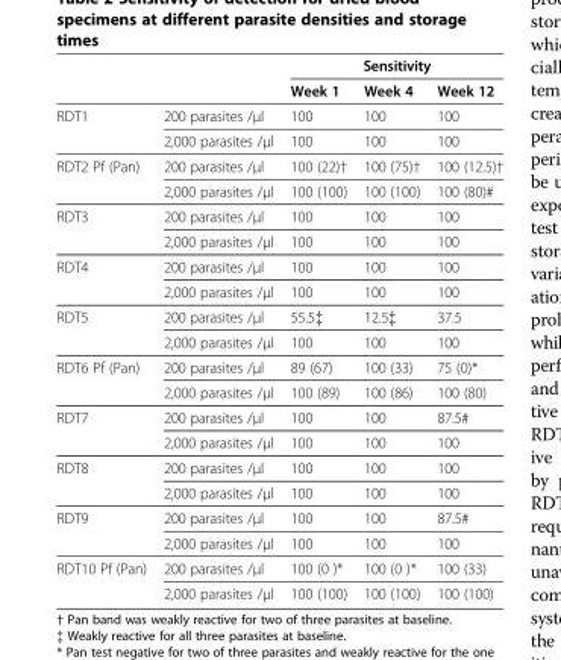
<table><thead><tr><td rowspan="2"></td><td rowspan="2"></td><td colspan="3">Sensitivity</td></tr><tr><td>Week 1</td><td>Week 4</td><td>Week 12</td></tr></thead><tbody><tr><td rowspan="2">RDT1</td><td>200 parasites /μl</td><td>100</td><td>100</td><td>100</td></tr><tr><td>2,000 parasites /μl</td><td>100</td><td>100</td><td>100</td></tr><tr><td rowspan="2">RDT2 Pf (Pan)</td><td>200 parasites /μl</td><td>100 (22)†</td><td>100 (75)†</td><td>100 (12.5)†</td></tr><tr><td>2,000 parasites /μl</td><td>100 (100)</td><td>100 (100)</td><td>100 (80)#</td></tr><tr><td rowspan="2">RDT3</td><td>200 parasites /μl</td><td>100</td><td>100</td><td>100</td></tr><tr><td>2,000 parasites /μl</td><td>100</td><td>100</td><td>100</td></tr><tr><td rowspan="2">RDT4</td><td>200 parasites /μl</td><td>100</td><td>100</td><td>100</td></tr><tr><td>2,000 parasites /μl</td><td>100</td><td>100</td><td>100</td></tr><tr><td rowspan="2">RDT5</td><td>200 parasites /μl</td><td>55.5‡</td><td>12.5‡</td><td>37.5</td></tr><tr><td>2,000 parasites /μl</td><td>100</td><td>100</td><td>100</td></tr><tr><td rowspan="2">RDT6 Pf (Pan)</td><td>200 parasites /μl</td><td>89 (67)</td><td>100 (33)</td><td>75 (0)*</td></tr><tr><td>2,000 parasites /μl</td><td>100 (89)</td><td>100 (86)</td><td>100 (80)</td></tr><tr><td rowspan="2">RDT7</td><td>200 parasites /μl</td><td>100</td><td>100</td><td>87.5#</td></tr><tr><td>2,000 parasites /μl</td><td>100</td><td>100</td><td>100</td></tr><tr><td rowspan="2">RDT8</td><td>200 parasites /μl</td><td>100</td><td>100</td><td>100</td></tr><tr><td>2,000 parasites /μl</td><td>100</td><td>100</td><td>100</td></tr><tr><td rowspan="2">RDT9</td><td>200 parasites /μl</td><td>100</td><td>100</td><td>87.5#</td></tr><tr><td>2,000 parasites /μl</td><td>100</td><td>100</td><td>100</td></tr><tr><td rowspan="2">RDT10 Pf (Pan)</td><td>200 parasites /μl</td><td>100 (0 )*</td><td>100 (0 )*</td><td>100 (33)</td></tr><tr><td>2,000 parasites /μl</td><td>100 (100)</td><td>100 (100)</td><td>100 (100)</td></tr></tbody></table>